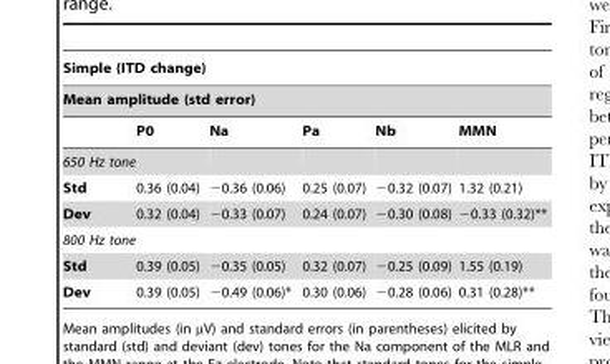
<table><thead><tr><td rowspan="2" colspan="6">Simple (ITD change) Mean amplitude (std error)</td></tr><tr></tr><tr><td></td><td>P0</td><td>Na</td><td>Pa</td><td>Nb</td><td>MMN</td></tr></thead><tbody><tr><td colspan="6">650 Hz tone</td></tr><tr><td>Std</td><td>0.36 (0.04)</td><td>−0.36 (0.06)</td><td>0.25 (0.07)</td><td>−0.32 (0.07)</td><td>1.32 (0.21)</td></tr><tr><td>Dev</td><td>0.32 (0.04)</td><td>−0.33 (0.07)</td><td>0.24 (0.07)</td><td>−0.30 (0.08)</td><td>−0.33 (0.32)**</td></tr><tr><td colspan="6">800 Hz tone</td></tr><tr><td>Std</td><td>0.39 (0.05)</td><td>−0.35 (0.05)</td><td>0.32 (0.07)</td><td>−0.25 (0.09)</td><td>1.55 (0.19)</td></tr><tr><td>Dev</td><td>0.39 (0.05)</td><td>−0.49 (0.06)*</td><td>0.30 (0.06)</td><td>−0.28 (0.06)</td><td>0.31 (0.28)**</td></tr></tbody></table>